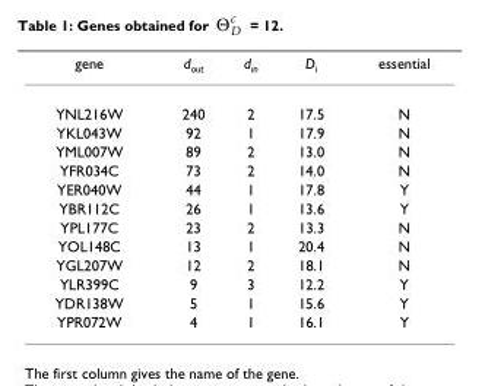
<table><thead><tr><td>gene</td><td>d<sub>out</sub></td><td>d<sub>in</sub></td><td>D<sub>i</sub></td><td>essential</td></tr></thead><tbody><tr><td>YNL216W</td><td>240</td><td>2</td><td>17.5</td><td>N</td></tr><tr><td>YKL043W</td><td>92</td><td>1</td><td>17.9</td><td>N</td></tr><tr><td>YML007W</td><td>89</td><td>2</td><td>13.0</td><td>N</td></tr><tr><td>YFR034C</td><td>73</td><td>2</td><td>14.0</td><td>N</td></tr><tr><td>YER040W</td><td>44</td><td>1</td><td>17.8</td><td>Y</td></tr><tr><td>YBR112C</td><td>26</td><td>1</td><td>13.6</td><td>Y</td></tr><tr><td>YPL177C</td><td>23</td><td>2</td><td>13.3</td><td>N</td></tr><tr><td>YOL148C</td><td>13</td><td>1</td><td>20.4</td><td>N</td></tr><tr><td>YGL207W</td><td>12</td><td>2</td><td>18.1</td><td>N</td></tr><tr><td>YLR399C</td><td>9</td><td>3</td><td>12.2</td><td>Y</td></tr><tr><td>YDR138W</td><td>5</td><td>1</td><td>15.6</td><td>Y</td></tr><tr><td>YPR072W</td><td>4</td><td>1</td><td>16.1</td><td>Y</td></tr></tbody></table>